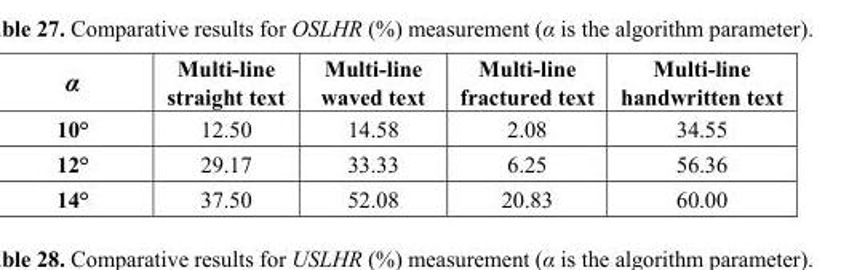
<table><thead><tr><td>α</td><td>Multi-line straight text</td><td>Multi-line waved text</td><td>Multi-line fractured text</td><td>Multi-line handwritten text</td></tr></thead><tbody><tr><td>10°</td><td>12.50</td><td>14.58</td><td>2.08</td><td>34.55</td></tr><tr><td>12°</td><td>29.17</td><td>33.33</td><td>6.25</td><td>56.36</td></tr><tr><td>14°</td><td>37.50</td><td>52.08</td><td>20.83</td><td>60.00</td></tr></tbody></table>